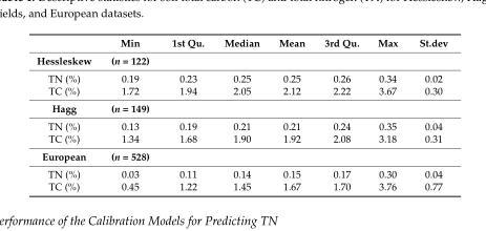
<table><thead><tr><td></td><td>Min</td><td>1st Qu.</td><td>Median</td><td>Mean</td><td>3rd Qu.</td><td>Max</td><td>St.dev</td></tr></thead><tbody><tr><td>Hessleskew</td><td>(n = 122)</td><td></td><td></td><td></td><td></td><td></td><td></td></tr><tr><td>TN (%)</td><td>0.19</td><td>0.23</td><td>0.25</td><td>0.25</td><td>0.26</td><td>0.34</td><td>0.02</td></tr><tr><td>TC (%)</td><td>1.72</td><td>1.94</td><td>2.05</td><td>2.12</td><td>2.22</td><td>3.67</td><td>0.30</td></tr><tr><td>Hagg</td><td>(n = 149)</td><td></td><td></td><td></td><td></td><td></td><td></td></tr><tr><td>TN (%)</td><td>0.13</td><td>0.19</td><td>0.21</td><td>0.21</td><td>0.24</td><td>0.35</td><td>0.04</td></tr><tr><td>TC (%)</td><td>1.34</td><td>1.68</td><td>1.90</td><td>1.92</td><td>2.08</td><td>3.18</td><td>0.31</td></tr><tr><td>European</td><td>(n = 528)</td><td></td><td></td><td></td><td></td><td></td><td></td></tr><tr><td>TN (%)</td><td>0.03</td><td>0.11</td><td>0.14</td><td>0.15</td><td>0.17</td><td>0.30</td><td>0.04</td></tr><tr><td>TC (%)</td><td>0.45</td><td>1.22</td><td>1.45</td><td>1.67</td><td>1.70</td><td>3.76</td><td>0.77</td></tr></tbody></table>